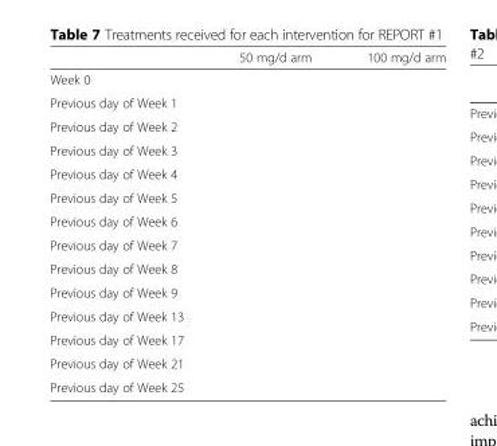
<table><thead><tr><td></td><td>50 mg/d arm</td><td>100 mg/d arm</td></tr></thead><tbody><tr><td colspan="3">Week 0</td></tr><tr><td colspan="3">Previous day of Week 1</td></tr><tr><td colspan="3">Previous day of Week 2</td></tr><tr><td colspan="3">Previous day of Week 3</td></tr><tr><td colspan="3">Previous day of Week 4</td></tr><tr><td colspan="3">Previous day of Week 5</td></tr><tr><td colspan="3">Previous day of Week 6</td></tr><tr><td colspan="3">Previous day of Week 7</td></tr><tr><td colspan="3">Previous day of Week 8</td></tr><tr><td colspan="3">Previous day of Week 9</td></tr><tr><td colspan="3">Previous day of Week 13</td></tr><tr><td colspan="3">Previous day of Week 17</td></tr><tr><td colspan="3">Previous day of Week 21</td></tr><tr><td>Previous day of Week 25</td><td></td><td></td></tr></tbody></table>